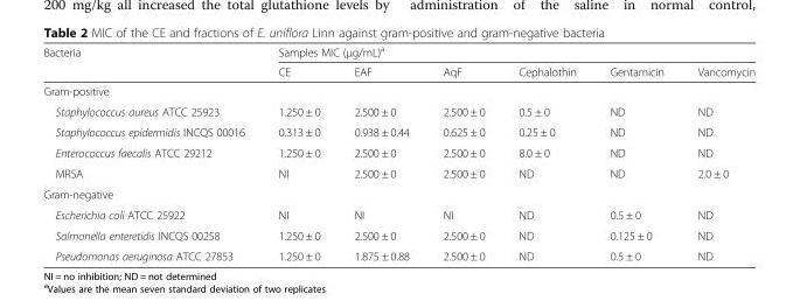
<table><thead><tr><td rowspan="2">Bacteria</td><td colspan="6">Samples MIC (μg/mL)<sup>a</sup></td></tr><tr><td>CE</td><td>EAF</td><td>AqF</td><td>Cephalothin</td><td>Gentamicin</td><td>Vancomycin</td></tr></thead><tbody><tr><td colspan="7">Gram-positive</td></tr><tr><td>Staphylococcus aureus ATCC 25923</td><td>1.250 ± 0</td><td>2.500 ± 0</td><td>2.500 ± 0</td><td>0.5 ± 0</td><td>ND</td><td>ND</td></tr><tr><td>Staphylococcus epidermidis INCQS 00016</td><td>0.313 ± 0</td><td>0.938 ± 0.44</td><td>0.625 ± 0</td><td>0.25 ± 0</td><td>ND</td><td>ND</td></tr><tr><td>Enterococcus faecalis ATCC 29212</td><td>1.250 ± 0</td><td>2.500 ± 0</td><td>2.500 ± 0</td><td>8.0 ± 0</td><td>ND</td><td>ND</td></tr><tr><td>MRSA</td><td>NI</td><td>2.500 ± 0</td><td>2.500 ± 0</td><td>ND</td><td>ND</td><td>2.0 ± 0</td></tr><tr><td colspan="7">Gram-negative</td></tr><tr><td>Escherichia coli ATCC 25922</td><td>NI</td><td>NI</td><td>NI</td><td>ND</td><td>0.5 ± 0</td><td>ND</td></tr><tr><td>Salmonella enteretidis INCQS 00258</td><td>1.250 ± 0</td><td>2.500 ± 0</td><td>2.500 ± 0</td><td>ND</td><td>0.125 ± 0</td><td>ND</td></tr><tr><td>Pseudomonas aeruginosa ATCC 27853</td><td>1.250 ± 0</td><td>1.875 ± 0.88</td><td>2.500 ± 0</td><td>ND</td><td>0.5 ± 0</td><td>ND</td></tr></tbody></table>